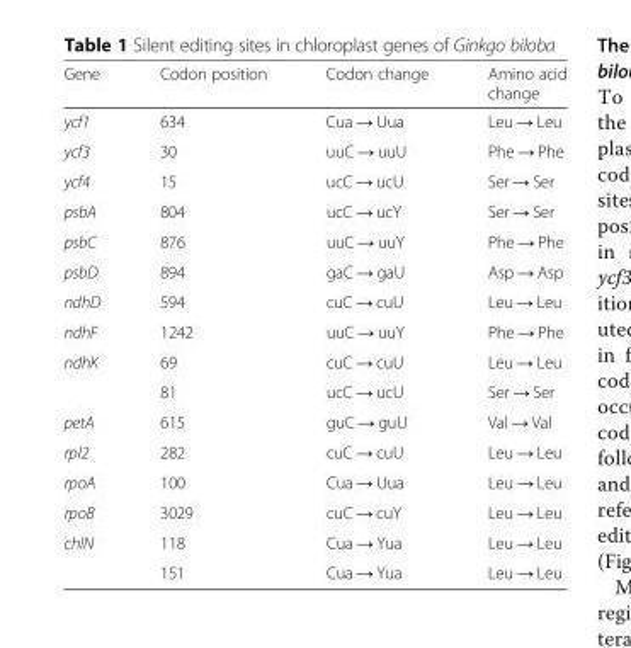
<table><thead><tr><td>Gene</td><td>Codon position</td><td>Codon change</td><td>Amino acid change</td></tr></thead><tbody><tr><td>ycf1</td><td>634</td><td>Cua → Uua</td><td>Leu → Leu</td></tr><tr><td>ycf3</td><td>30</td><td>uuC → uuU</td><td>Phe → Phe</td></tr><tr><td>ycf4</td><td>15</td><td>ucC → ucU</td><td>Ser → Ser</td></tr><tr><td>psbA</td><td>804</td><td>ucC → ucY</td><td>Ser → Ser</td></tr><tr><td>psbC</td><td>876</td><td>uuC → uuY</td><td>Phe → Phe</td></tr><tr><td>psbD</td><td>894</td><td>gaC → gaU</td><td>Asp → Asp</td></tr><tr><td>ndhD</td><td>594</td><td>cuC → cuU</td><td>Leu → Leu</td></tr><tr><td>ndhF</td><td>1242</td><td>uuC → uuY</td><td>Phe → Phe</td></tr><tr><td rowspan="2">ndhK</td><td>69</td><td>cuC → cuU</td><td>Leu → Leu</td></tr><tr><td>81</td><td>ucC → ucU</td><td>Ser → Ser</td></tr><tr><td>petA</td><td>615</td><td>guC → guU</td><td>Val → Val</td></tr><tr><td>rpl2</td><td>282</td><td>cuC → cuU</td><td>Leu → Leu</td></tr><tr><td>rpoA</td><td>100</td><td>Cua → Uua</td><td>Leu → Leu</td></tr><tr><td>rpoB</td><td>3029</td><td>cuC → cuY</td><td>Leu → Leu</td></tr><tr><td rowspan="2">chlN</td><td>118</td><td>Cua → Yua</td><td>Leu → Leu</td></tr><tr><td>151</td><td>Cua → Yua</td><td>Leu → Leu</td></tr></tbody></table>